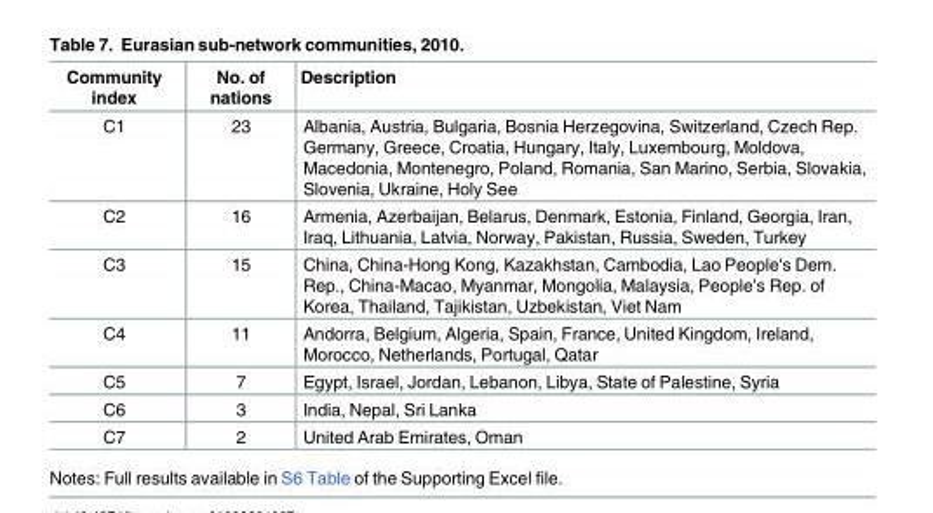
<table><thead><tr><td>Community index</td><td>No. of nations</td><td>Description</td></tr></thead><tbody><tr><td>C1</td><td>23</td><td>Albania, Austria, Bulgaria, Bosnia Herzegovina, Switzerland, Czech Rep. Germany, Greece, Croatia, Hungary, Italy, Luxembourg, Moldova, Macedonia, Montenegro, Poland, Romania, San Marino, Serbia, Slovakia, Slovenia, Ukraine, Holy See</td></tr><tr><td>C2</td><td>16</td><td>Armenia, Azerbaijan, Belarus, Denmark, Estonia, Finland, Georgia, Iran, Iraq, Lithuania, Latvia, Norway, Pakistan, Russia, Sweden, Turkey</td></tr><tr><td>C3</td><td>15</td><td>China, China-Hong Kong, Kazakhstan, Cambodia, Lao People&#x27;s Dem. Rep., China-Macao, Myanmar, Mongolia, Malaysia, People’s Rep. of Korea, Thailand, Tajikistan, Uzbekistan, Viet Nam</td></tr><tr><td>C4</td><td>11</td><td>Andorra, Belgium, Algeria, Spain, France, United Kingdom, Ireland, Morocco, Netherlands, Portugal, Qatar</td></tr><tr><td>C5</td><td>7</td><td>Egypt, Israel, Jordan, Lebanon, Libya, State of Palestine, Syria</td></tr><tr><td>C6</td><td>3</td><td>India, Nepal, Sri Lanka</td></tr><tr><td>C7</td><td>2</td><td>United Arab Emirates, Oman</td></tr></tbody></table>